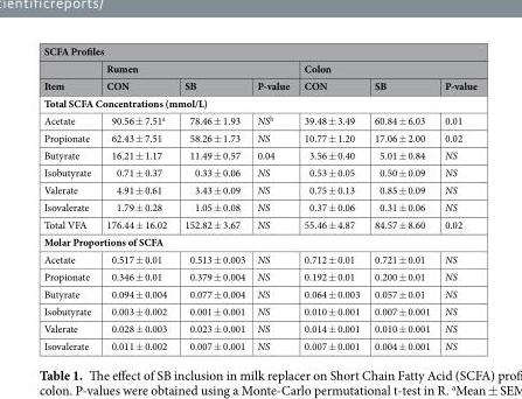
<table><thead><tr><td colspan="7">SCFA Profiles</td></tr><tr><td rowspan="2">Item</td><td colspan="3">Rumen</td><td colspan="3">Colon</td></tr><tr><td>CON</td><td>SB</td><td>P-value</td><td>CON</td><td>SB</td><td>P-value</td></tr></thead><tbody><tr><td colspan="7">Total SCFA Concentrations (mmol/L)</td></tr><tr><td>Acetate</td><td>90.56 ± 7.51<sup>a</sup></td><td>78.46 ± 1.93</td><td>NS<sup>b</sup></td><td>39.48 ± 3.49</td><td>60.84 ± 6.03</td><td>0.01</td></tr><tr><td>Propionate</td><td>62.43 ± 7.51</td><td>58.26 ± 1.73</td><td>NS</td><td>10.77 ± 1.20</td><td>17.06 ± 2.00</td><td>0.02</td></tr><tr><td>Butyrate</td><td>16.21 ± 1.17</td><td>11.49 ± 0.57</td><td>0.04</td><td>3.56 ± 0.40</td><td>5.01 ± 0.84</td><td>NS</td></tr><tr><td>Isobutyrate</td><td>0.71 ± 0.37</td><td>0.33 ± 0.06</td><td>NS</td><td>0.53 ± 0.05</td><td>0.50 ± 0.09</td><td>NS</td></tr><tr><td>Valerate</td><td>4.91 ± 0.61</td><td>3.43 ± 0.09</td><td>NS</td><td>0.75 ± 0.13</td><td>0.85 ± 0.09</td><td>NS</td></tr><tr><td>Isovalerate</td><td>1.79 ± 0.28</td><td>1.05 ± 0.08</td><td>NS</td><td>0.37 ± 0.06</td><td>0.31 ± 0.06</td><td>NS</td></tr><tr><td>Total VFA</td><td>176.44 ± 16.02</td><td>152.82 ± 3.67</td><td>NS</td><td>55.46 ± 4.87</td><td>84.57 ± 8.60</td><td>0.02</td></tr><tr><td colspan="7">Molar Proportions of SCFA</td></tr><tr><td>Acetate</td><td>0.517 ± 0.01</td><td>0.513 ± 0.003</td><td>NS</td><td>0.712 ± 0.01</td><td>0.721 ± 0.01</td><td>NS</td></tr><tr><td>Propionate</td><td>0.346 ± 0.01</td><td>0.379 ± 0.004</td><td>NS</td><td>0.192 ± 0.01</td><td>0.200 ± 0.01</td><td>NS</td></tr><tr><td>Butyrate</td><td>0.094 ± 0.004</td><td>0.077 ± 0.004</td><td>NS</td><td>0.064 ± 0.003</td><td>0.057 ± 0.01</td><td>NS</td></tr><tr><td>Isobutyrate</td><td>0.003 ± 0.002</td><td>0.001 ± 0.001</td><td>NS</td><td>0.010 ± 0.001</td><td>0.007 ± 0.001</td><td>NS</td></tr><tr><td>Valerate</td><td>0.028 ± 0.003</td><td>0.023 ± 0.001</td><td>NS</td><td>0.014 ± 0.001</td><td>0.010 ± 0.001</td><td>NS</td></tr><tr><td>Isovalerate</td><td>0.011 ± 0.002</td><td>0.007 ± 0.001</td><td>NS</td><td>0.007 ± 0.001</td><td>0.004 ± 0.001</td><td>NS</td></tr></tbody></table>